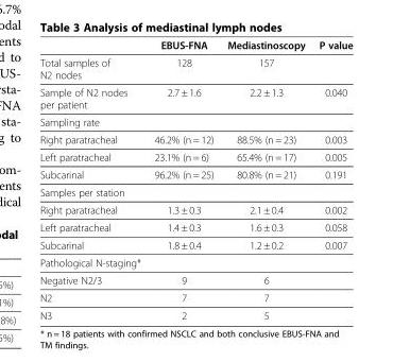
<table><thead><tr><td></td><td>EBUS-FNA</td><td>Mediastinoscopy</td><td>P value</td></tr></thead><tbody><tr><td>Total samples of N2 nodes</td><td>128</td><td>157</td><td></td></tr><tr><td>Sample of N2 nodes per patient</td><td>2.7 ± 1.6</td><td>2.2 ± 1.3</td><td>0.040</td></tr><tr><td colspan="4">Sampling rate</td></tr><tr><td>Right paratracheal</td><td>46.2% (n = 12)</td><td>88.5% (n = 23)</td><td>0.003</td></tr><tr><td>Left paratracheal</td><td>23.1% (n = 6)</td><td>65.4% (n = 17)</td><td>0.005</td></tr><tr><td>Subcarinal</td><td>96.2% (n = 25)</td><td>80.8% (n = 21)</td><td>0.191</td></tr><tr><td colspan="4">Samples per station</td></tr><tr><td>Right paratracheal</td><td>1.3 ± 0.3</td><td>2.1 ± 0.4</td><td>0.002</td></tr><tr><td>Left paratracheal</td><td>1.4 ± 0.3</td><td>1.6 ± 0.3</td><td>0.058</td></tr><tr><td>Subcarinal</td><td>1.8 ± 0.4</td><td>1.2 ± 0.2</td><td>0.007</td></tr><tr><td colspan="4">Pathological N-staging*</td></tr><tr><td>Negative N2/3</td><td>9</td><td>6</td><td></td></tr><tr><td>N2</td><td>7</td><td>7</td><td></td></tr><tr><td>N3</td><td>2</td><td>5</td><td></td></tr></tbody></table>